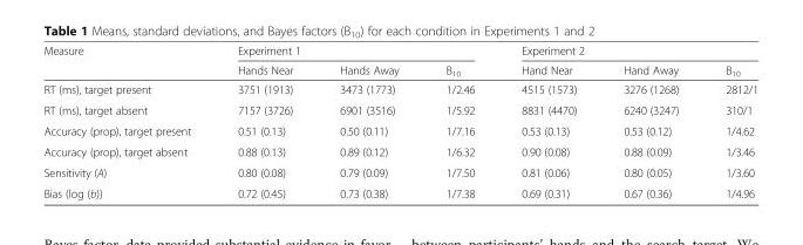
<table><thead><tr><td rowspan="2">Measure</td><td colspan="3">Experiment 1</td><td colspan="3">Experiment 2</td></tr><tr><td>Hands Near</td><td>Hands Away</td><td>B<sub>10</sub></td><td>Hand Near</td><td>Hand Away</td><td>B<sub>10</sub></td></tr></thead><tbody><tr><td>RT (ms), target present</td><td>3751 (1913)</td><td>3473 (1773)</td><td>1/2.46</td><td>4515 (1573)</td><td>3276 (1268)</td><td>2812/1</td></tr><tr><td>RT (ms), target absent</td><td>7157 (3726)</td><td>6901 (3516)</td><td>1/5.92</td><td>8831 (4470)</td><td>6240 (3247)</td><td>310/1</td></tr><tr><td>Accuracy (prop), target present</td><td>0.51 (0.13)</td><td>0.50 (0.11)</td><td>1/7.16</td><td>0.53 (0.13)</td><td>0.53 (0.12)</td><td>1/4.62</td></tr><tr><td>Accuracy (prop), target absent</td><td>0.88 (0.13)</td><td>0.89 (0.12)</td><td>1/6.32</td><td>0.90 (0.08)</td><td>0.88 (0.09)</td><td>1/3.46</td></tr><tr><td>Sensitivity (A)</td><td>0.80 (0.08)</td><td>0.79 (0.09)</td><td>1/7.50</td><td>0.81 (0.06)</td><td>0.80 (0.05)</td><td>1/3.60</td></tr><tr><td>Bias (log (b))</td><td>0.72 (0.45)</td><td>0.73 (0.38)</td><td>1/7.38</td><td>0.69 (0.31)</td><td>0.67 (0.36)</td><td>1/4.96</td></tr></tbody></table>